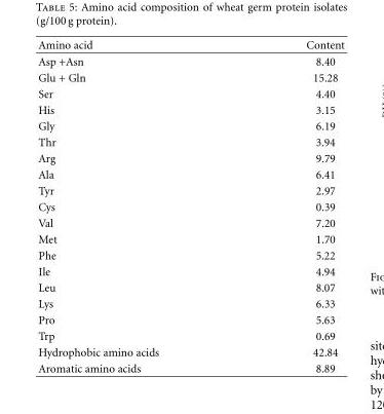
<table><thead><tr><td>Amino acid</td><td>Content</td></tr></thead><tbody><tr><td>Asp +Asn</td><td>8.40</td></tr><tr><td>Glu + Gln</td><td>15.28</td></tr><tr><td>Ser</td><td>4.40</td></tr><tr><td>His</td><td>3.15</td></tr><tr><td>Gly</td><td>6.19</td></tr><tr><td>Thr</td><td>3.94</td></tr><tr><td>Arg</td><td>9.79</td></tr><tr><td>Ala</td><td>6.41</td></tr><tr><td>Tyr</td><td>2.97</td></tr><tr><td>Cys</td><td>0.39</td></tr><tr><td>Val</td><td>7.20</td></tr><tr><td>Met</td><td>1.70</td></tr><tr><td>Phe</td><td>5.22</td></tr><tr><td>Ile</td><td>4.94</td></tr><tr><td>Leu</td><td>8.07</td></tr><tr><td>Lys</td><td>6.33</td></tr><tr><td>Pro</td><td>5.63</td></tr><tr><td>Trp</td><td>0.69</td></tr><tr><td>Hydrophobic amino acids</td><td>42.84</td></tr><tr><td>Aromatic amino acids</td><td>8.89</td></tr></tbody></table>